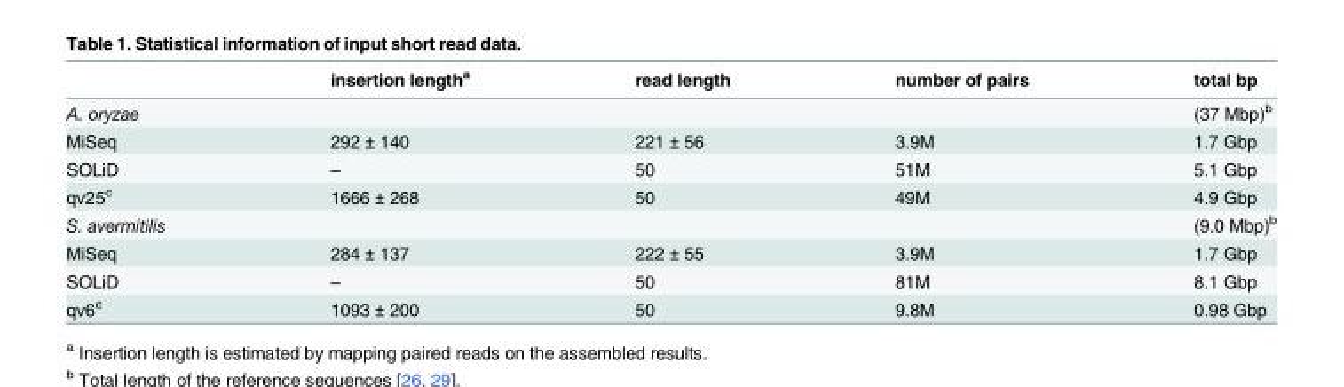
<table><thead><tr><td></td><td>insertion length<sup>a</sup></td><td>read length</td><td>number of pairs</td><td>total bp</td></tr></thead><tbody><tr><td>A. oryzae</td><td></td><td></td><td></td><td>(37 Mbp)<sup>b</sup></td></tr><tr><td>MiSeq</td><td>292 ± 140</td><td>221 ± 56</td><td>3.9M</td><td>1.7 Gbp</td></tr><tr><td>SOLiD</td><td>–</td><td>50</td><td>51M</td><td>5.1 Gbp</td></tr><tr><td>qv25<sup>c</sup></td><td>1666 ± 268</td><td>50</td><td>49M</td><td>4.9 Gbp</td></tr><tr><td>S. avermitilis</td><td></td><td></td><td></td><td>(9.0 Mbp)<sup>b</sup></td></tr><tr><td>MiSeq</td><td>284 ± 137</td><td>222 ± 55</td><td>3.9M</td><td>1.7 Gbp</td></tr><tr><td>SOLiD</td><td>–</td><td>50</td><td>81M</td><td>8.1 Gbp</td></tr><tr><td>qv6<sup>c</sup></td><td>1093 ± 200</td><td>50</td><td>9.8M</td><td>0.98 Gbp</td></tr></tbody></table>